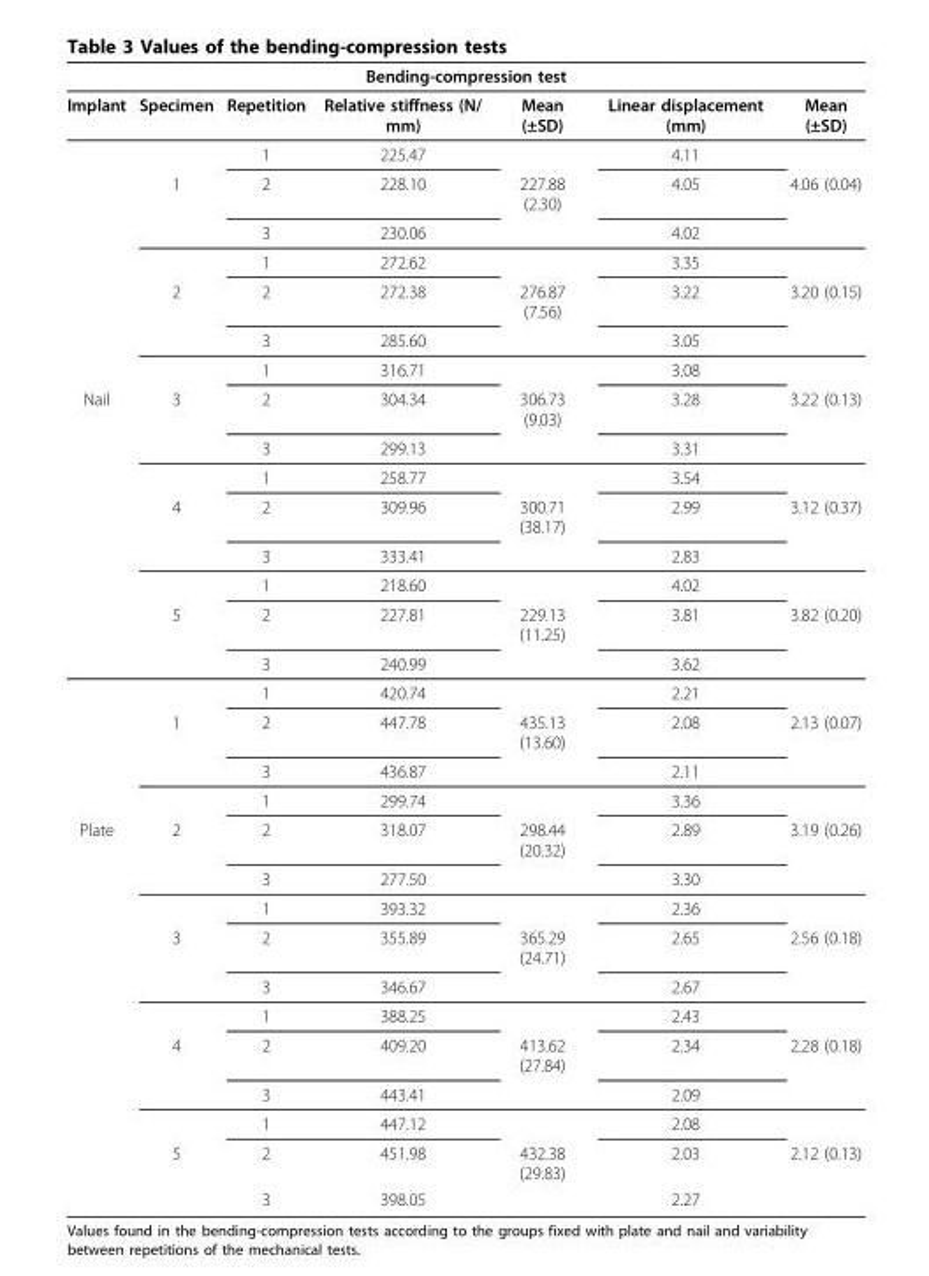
<table><thead><tr><td colspan="7">Bending-compression test</td></tr><tr><td>Implant</td><td>Specimen</td><td>Repetition</td><td>Relative stiffness (N/ mm)</td><td>Mean (±SD)</td><td>Linear displacement (mm)</td><td>Mean (±SD)</td></tr></thead><tbody><tr><td></td><td></td><td>1</td><td>225.47</td><td></td><td>4.11</td><td></td></tr><tr><td></td><td>1</td><td>2</td><td>228.10</td><td>227.88 (2.30)</td><td>4.05</td><td>4.06 (0.04)</td></tr><tr><td></td><td></td><td>3</td><td>230.06</td><td></td><td>4.02</td><td></td></tr><tr><td></td><td></td><td>1</td><td>272.62</td><td></td><td>3.35</td><td></td></tr><tr><td></td><td>2</td><td>2</td><td>272.38</td><td>276.87 (7.56)</td><td>3.22</td><td>3.20 (0.15)</td></tr><tr><td></td><td></td><td>3</td><td>285.60</td><td></td><td>3.05</td><td></td></tr><tr><td></td><td></td><td>1</td><td>316.71</td><td></td><td>3.08</td><td></td></tr><tr><td rowspan="12">Nail</td><td>3</td><td>2</td><td>304.34</td><td>306.73 (9.03)</td><td>3.28</td><td>3.22 (0.13)</td></tr><tr><td></td><td>3</td><td>299.13</td><td></td><td>3.31</td><td></td></tr><tr><td></td><td>1</td><td>258.77</td><td></td><td>3.54</td><td></td></tr><tr><td>4</td><td>2</td><td>309.96</td><td>300.71 (38.17)</td><td>2.99</td><td>3.12 (0.37)</td></tr><tr><td></td><td>3</td><td>333.41</td><td></td><td>2.83</td><td></td></tr><tr><td></td><td>1</td><td>218.60</td><td></td><td>4.02</td><td></td></tr><tr><td>5</td><td>2</td><td>227.81</td><td>229.13 (11.25)</td><td>3.81</td><td>3.82 (0.20)</td></tr><tr><td></td><td>3</td><td>240.99</td><td></td><td>3.62</td><td></td></tr><tr><td></td><td>1</td><td>420.74</td><td></td><td>2.21</td><td></td></tr><tr><td>1</td><td>2</td><td>447.78</td><td>435.13 (13.60)</td><td>2.08</td><td>2.13 (0.07)</td></tr><tr><td></td><td>3</td><td>436.87</td><td></td><td>2.11</td><td></td></tr><tr><td></td><td>1</td><td>299.74</td><td></td><td>3.36</td><td></td></tr><tr><td rowspan="11">Plate</td><td>2</td><td>2</td><td>318.07</td><td>298.44 (20.32)</td><td>2.89</td><td>3.19 (0.26)</td></tr><tr><td></td><td>3</td><td>277.50</td><td></td><td>3.30</td><td></td></tr><tr><td></td><td>1</td><td>393.32</td><td></td><td>2.36</td><td></td></tr><tr><td>3</td><td>2</td><td>355.89</td><td>365.29 (24.71)</td><td>2.65</td><td>2.56 (0.18)</td></tr><tr><td></td><td>3</td><td>346.67</td><td></td><td>2.67</td><td></td></tr><tr><td></td><td>1</td><td>388.25</td><td></td><td>2.43</td><td></td></tr><tr><td>4</td><td>2</td><td>409.20</td><td>413.62 (27.84)</td><td>2.34</td><td>2.28 (0.18)</td></tr><tr><td></td><td>3</td><td>443.41</td><td></td><td>2.09</td><td></td></tr><tr><td></td><td>1</td><td>447.12</td><td></td><td>2.08</td><td></td></tr><tr><td>5</td><td>2</td><td>451.98</td><td>432.38 (29.83)</td><td>2.03</td><td>2.12 (0.13)</td></tr><tr><td></td><td>3</td><td>398.05</td><td></td><td>2.27</td><td></td></tr></tbody></table>